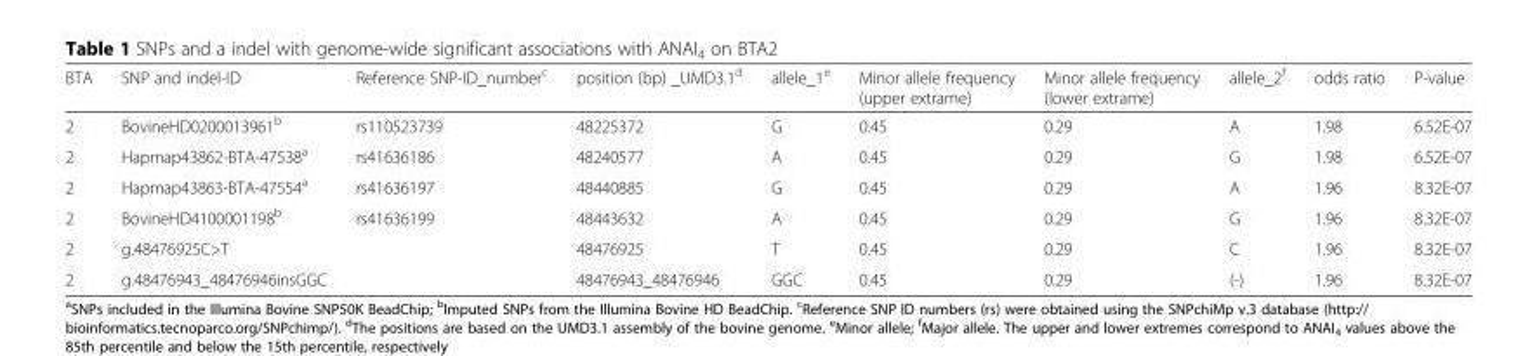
<table><thead><tr><td>BTA</td><td>SNP and indel-ID</td><td>Reference SNP-ID_number<sup>c</sup></td><td>position (bp) _UMD3.1<sup>d</sup></td><td>allele_1<sup>e</sup></td><td>Minor allele frequency (upper extrame)</td><td>Minor allele frequency (lower extrame)</td><td>allele_2<sup>f</sup></td><td>odds ratio</td><td>P-value</td></tr></thead><tbody><tr><td>2</td><td>BovineHD0200013961<sup>b</sup></td><td>rs110523739</td><td>48225372</td><td>G</td><td>0.45</td><td>0.29</td><td>A</td><td>1.98</td><td>6.52E-07</td></tr><tr><td>2</td><td>Hapmap43862-BTA-47538<sup>a</sup></td><td>rs41636186</td><td>48240577</td><td>A</td><td>0.45</td><td>0.29</td><td>G</td><td>1.98</td><td>6.52E-07</td></tr><tr><td>2</td><td>Hapmap43863-BTA-47554<sup>a</sup></td><td>rs41636197</td><td>48440885</td><td>G</td><td>0.45</td><td>0.29</td><td>A</td><td>1.96</td><td>8.32E-07</td></tr><tr><td>2</td><td>BovineHD4100001198<sup>b</sup></td><td>rs41636199</td><td>48443632</td><td>A</td><td>0.45</td><td>0.29</td><td>G</td><td>1.96</td><td>8.32E-07</td></tr><tr><td>2</td><td>g.48476925C&gt;T</td><td></td><td>48476925</td><td>T</td><td>0.45</td><td>0.29</td><td>C</td><td>1.96</td><td>8.32E-07</td></tr><tr><td>2</td><td>g.48476943_48476946insGGC</td><td></td><td>48476943_48476946</td><td>GGC</td><td>0.45</td><td>0.29</td><td>(-)</td><td>1.96</td><td>8.32E-07</td></tr></tbody></table>